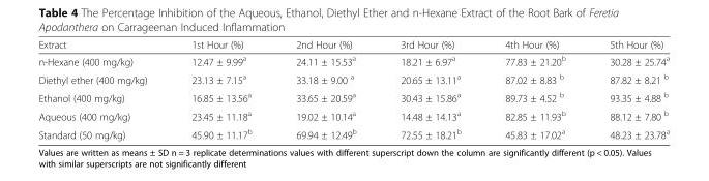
<table><thead><tr><td>Extract</td><td>1st Hour (%)</td><td>2nd Hour (%)</td><td>3rd Hour (%)</td><td>4th Hour (%)</td><td>5th Hour (%)</td></tr></thead><tbody><tr><td>n-Hexane (400 mg/kg)</td><td>12.47 ± 9.99<sup>a</sup></td><td>24.11 ± 15.53<sup>a</sup></td><td>18.21 ± 6.97<sup>a</sup></td><td>77.83 ± 21.20<sup>b</sup></td><td>30.28 ± 25.74<sup>a</sup></td></tr><tr><td>Diethyl ether (400 mg/kg)</td><td>23.13 ± 7.15<sup>a</sup></td><td>33.18 ± 9.00 <sup>a</sup></td><td>20.65 ± 13.11<sup>a</sup></td><td>87.02 ± 8.83 <sup>b</sup></td><td>87.82 ± 8.21 <sup>b</sup></td></tr><tr><td>Ethanol (400 mg/kg)</td><td>16.85 ± 13.56<sup>a</sup></td><td>33.65 ± 20.59<sup>a</sup></td><td>30.43 ± 15.86<sup>a</sup></td><td>89.73 ± 4.52 <sup>b</sup></td><td>93.35 ± 4.88 <sup>b</sup></td></tr><tr><td>Aqueous (400 mg/kg)</td><td>23.45 ± 11.18<sup>a</sup></td><td>19.02 ± 10.14<sup>a</sup></td><td>14.48 ± 14.13<sup>a</sup></td><td>82.85 ± 11.93<sup>b</sup></td><td>88.12 ± 7.80 <sup>b</sup></td></tr><tr><td>Standard (50 mg/kg)</td><td>45.90 ± 11.17<sup>b</sup></td><td>69.94 ± 12.49<sup>b</sup></td><td>72.55 ± 18.21<sup>b</sup></td><td>45.83 ± 17.02<sup>a</sup></td><td>48.23 ± 23.78<sup>a</sup></td></tr></tbody></table>